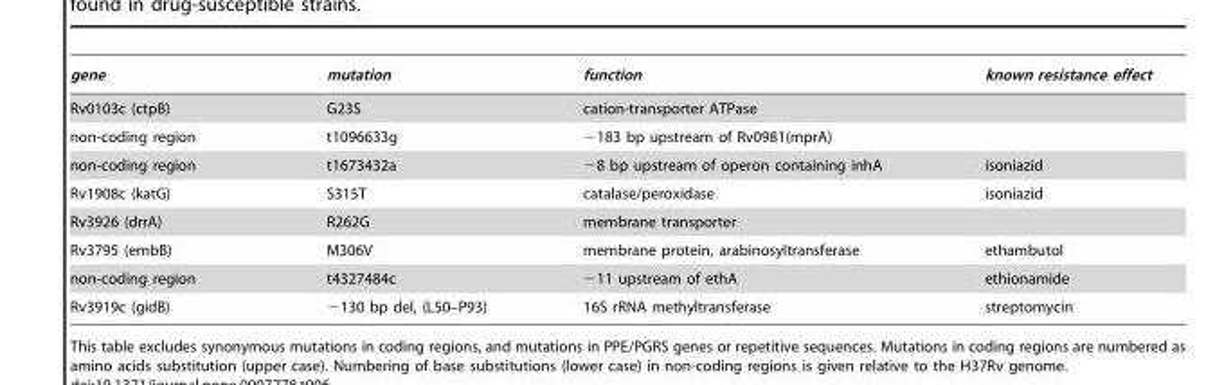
<table><thead><tr><td>gene</td><td>mutation</td><td>function</td><td>known resistance effect</td></tr></thead><tbody><tr><td>Rv0103c (ctpB)</td><td>G23S</td><td>cation-transporter ATPase</td><td></td></tr><tr><td>non-coding region</td><td>t1096633g</td><td>−183 bp upstream of Rv0981(mprA)</td><td></td></tr><tr><td>non-coding region</td><td>t1673432a</td><td>−8 bp upstream of operon containing inhA</td><td>isoniazid</td></tr><tr><td>Rv1908c (katG)</td><td>S315T</td><td>catalase/peroxidase</td><td>isoniazid</td></tr><tr><td>Rv3926 (drrA)</td><td>R262G</td><td>membrane transporter</td><td></td></tr><tr><td>Rv3795 (embB)</td><td>M306V</td><td>membrane protein, arabinosyltransferase</td><td>ethambutol</td></tr><tr><td>non-coding region</td><td>t4327484c</td><td>−11 upstream of ethA</td><td>ethionamide</td></tr><tr><td>Rv3919c (gidB)</td><td>−130 bp del, (L50–P93)</td><td>16S rRNA methyltransferase</td><td>streptomycin</td></tr></tbody></table>